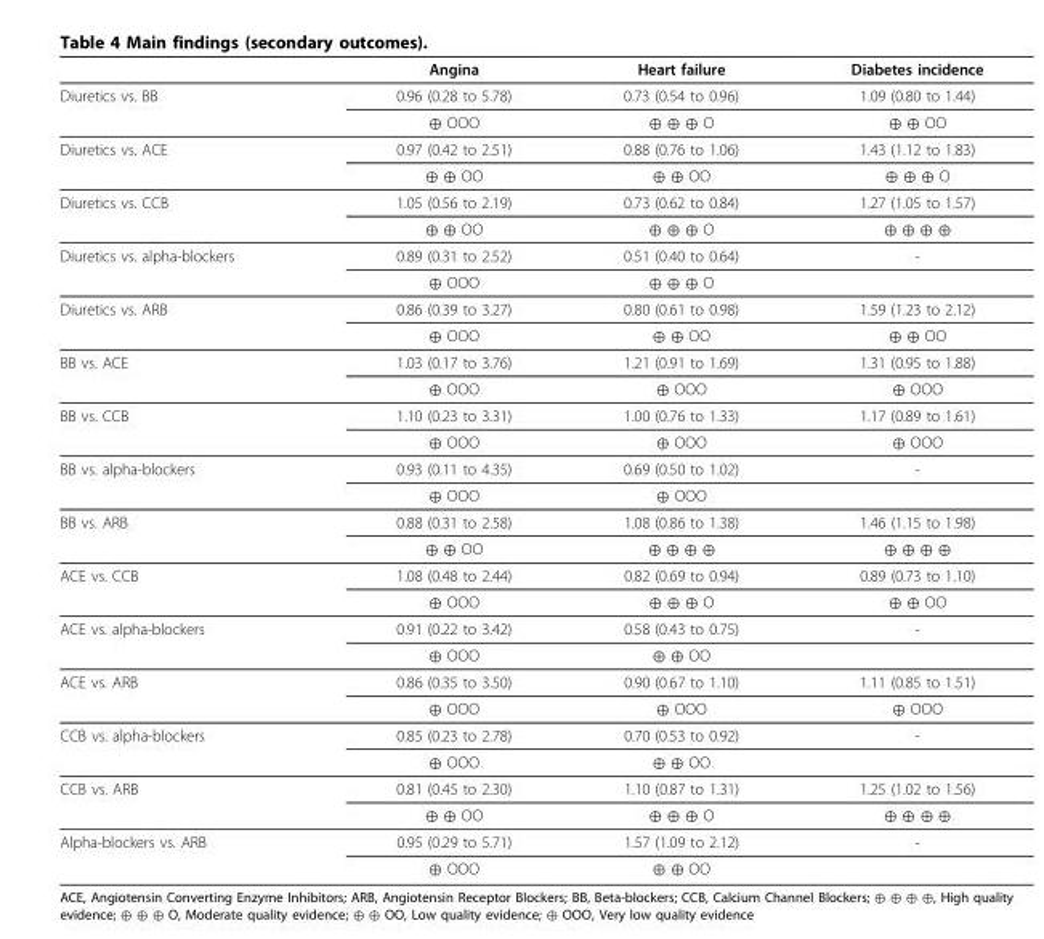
<table><thead><tr><td></td><td>Angina</td><td>Heart failure</td><td>Diabetes incidence</td></tr></thead><tbody><tr><td rowspan="2">Diuretics vs. BB</td><td>0.96 (0.28 to 5.78)</td><td>0.73 (0.54 to 0.96)</td><td>1.09 (0.80 to 1.44)</td></tr><tr><td>⊕ OOO</td><td>⊕ ⊕ ⊕ O</td><td>⊕ ⊕ OO</td></tr><tr><td rowspan="2">Diuretics vs. ACE</td><td>0.97 (0.42 to 2.51)</td><td>0.88 (0.76 to 1.06)</td><td>1.43 (1.12 to 1.83)</td></tr><tr><td>⊕ ⊕ OO</td><td>⊕ ⊕ OO</td><td>⊕ ⊕ ⊕ O</td></tr><tr><td rowspan="2">Diuretics vs. CCB</td><td>1.05 (0.56 to 2.19)</td><td>0.73 (0.62 to 0.84)</td><td>1.27 (1.05 to 1.57)</td></tr><tr><td>⊕ ⊕ OO</td><td>⊕ ⊕ ⊕ O</td><td>⊕ ⊕ ⊕ ⊕</td></tr><tr><td rowspan="2">Diuretics vs. alpha-blockers</td><td>0.89 (0.31 to 2.52)</td><td>0.51 (0.40 to 0.64)</td><td>-</td></tr><tr><td>⊕ OOO</td><td>⊕ ⊕ ⊕ O</td><td></td></tr><tr><td rowspan="2">Diuretics vs. ARB</td><td>0.86 (0.39 to 3.27)</td><td>0.80 (0.61 to 0.98)</td><td>1.59 (1.23 to 2.12)</td></tr><tr><td>⊕ OOO</td><td>⊕ ⊕ OO</td><td>⊕ ⊕ OO</td></tr><tr><td rowspan="2">BB vs. ACE</td><td>1.03 (0.17 to 3.76)</td><td>1.21 (0.91 to 1.69)</td><td>1.31 (0.95 to 1.88)</td></tr><tr><td>⊕ OOO</td><td>⊕ OOO</td><td>⊕ OOO</td></tr><tr><td rowspan="2">BB vs. CCB</td><td>1.10 (0.23 to 3.31)</td><td>1.00 (0.76 to 1.33)</td><td>1.17 (0.89 to 1.61)</td></tr><tr><td>⊕ OOO</td><td>⊕ OOO</td><td>⊕ OOO</td></tr><tr><td rowspan="2">BB vs. alpha-blockers</td><td>0.93 (0.11 to 4.35)</td><td>0.69 (0.50 to 1.02)</td><td>-</td></tr><tr><td>⊕ OOO</td><td>⊕ OOO</td><td></td></tr><tr><td rowspan="2">BB vs. ARB</td><td>0.88 (0.31 to 2.58)</td><td>1.08 (0.86 to 1.38)</td><td>1.46 (1.15 to 1.98)</td></tr><tr><td>⊕ ⊕ OO</td><td>⊕ ⊕ ⊕ ⊕</td><td>⊕ ⊕ ⊕ ⊕</td></tr><tr><td rowspan="2">ACE vs. CCB</td><td>1.08 (0.48 to 2.44)</td><td>0.82 (0.69 to 0.94)</td><td>0.89 (0.73 to 1.10)</td></tr><tr><td>⊕ OOO</td><td>⊕ ⊕ ⊕ O</td><td>⊕ ⊕ OO</td></tr><tr><td rowspan="2">ACE vs. alpha-blockers</td><td>0.91 (0.22 to 3.42)</td><td>0.58 (0.43 to 0.75)</td><td>-</td></tr><tr><td>⊕ OOO</td><td>⊕ ⊕ OO</td><td></td></tr><tr><td rowspan="2">ACE vs. ARB</td><td>0.86 (0.35 to 3.50)</td><td>0.90 (0.67 to 1.10)</td><td>1.11 (0.85 to 1.51)</td></tr><tr><td>⊕ OOO</td><td>⊕ OOO</td><td>⊕ OOO</td></tr><tr><td rowspan="2">CCB vs. alpha-blockers</td><td>0.85 (0.23 to 2.78)</td><td>0.70 (0.53 to 0.92)</td><td>-</td></tr><tr><td>⊕ OOO</td><td>⊕ ⊕ OO</td><td></td></tr><tr><td rowspan="2">CCB vs. ARB</td><td>0.81 (0.45 to 2.30)</td><td>1.10 (0.87 to 1.31)</td><td>1.25 (1.02 to 1.56)</td></tr><tr><td>⊕ ⊕ OO</td><td>⊕ ⊕ ⊕ O</td><td>⊕ ⊕ ⊕ ⊕</td></tr><tr><td rowspan="2">Alpha-blockers vs. ARB</td><td>0.95 (0.29 to 5.71)</td><td>1.57 (1.09 to 2.12)</td><td>-</td></tr><tr><td>⊕ OOO</td><td>⊕ ⊕ OO</td><td></td></tr></tbody></table>